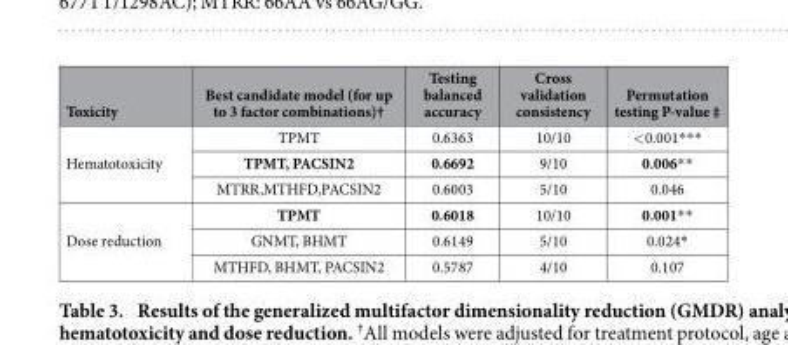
<table><thead><tr><td>Toxicity</td><td>Best candidate model (for up to 3 factor combinations)†</td><td>Testing balanced accuracy</td><td>Cross validation consistency</td><td>Permutation testing P-value ‡</td></tr></thead><tbody><tr><td rowspan="3">Hematotoxicity</td><td>TPMT</td><td>0.6363</td><td>10/10</td><td>&lt; 0.001* * *</td></tr><tr><td>TPMT, PACSIN2</td><td>0.6692</td><td>9/10</td><td>0.006* *</td></tr><tr><td>MTRR,MTHFD,PACSIN2</td><td>0.6003</td><td>5/10</td><td>0.046</td></tr><tr><td rowspan="3">Dose reduction</td><td>TPMT</td><td>0.6018</td><td>10/10</td><td>0.001* *</td></tr><tr><td>GNMT, BHMT</td><td>0.6149</td><td>5/10</td><td>0.024*</td></tr><tr><td>MTHFD, BHMT, PACSIN2</td><td>0.5787</td><td>4/10</td><td>0.107</td></tr></tbody></table>